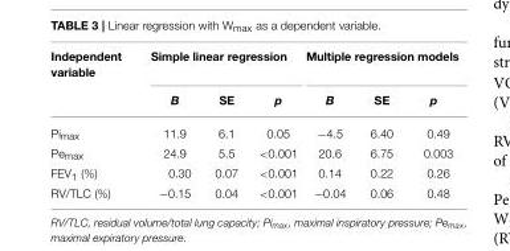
<table><thead><tr><td rowspan="2">Independent variable</td><td colspan="3">Simple linear regression</td><td colspan="3">Multiple regression models</td></tr><tr><td>B</td><td>SE</td><td>p</td><td>B</td><td>SE</td><td>p</td></tr></thead><tbody><tr><td>Pi<sub>max</sub></td><td>11.9</td><td>6.1</td><td>0.05</td><td>−4.5</td><td>6.40</td><td>0.49</td></tr><tr><td>Pe<sub>max</sub></td><td>24.9</td><td>5.5</td><td>&lt;0.001</td><td>20.6</td><td>6.75</td><td>0.003</td></tr><tr><td>FEV<sub>1</sub> (%)</td><td>0.30</td><td>0.07</td><td>&lt;0.001</td><td>0.14</td><td>0.22</td><td>0.26</td></tr><tr><td>RV/TLC (%)</td><td>−0.15</td><td>0.04</td><td>&lt;0.001</td><td>−0.04</td><td>0.06</td><td>0.48</td></tr></tbody></table>